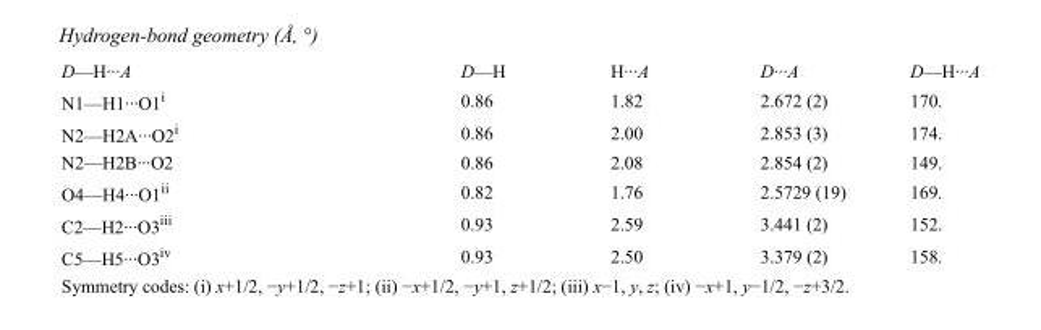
<table><tbody><tr><td>D—H···A</td><td>D—H</td><td>H···A</td><td>D···A</td><td>D—H···A</td></tr><tr><td>N1—H1···O1<sup>i</sup></td><td>0.86</td><td>1.82</td><td>2.672 (2)</td><td>170.</td></tr><tr><td>N2—H2A···O2<sup>i</sup></td><td>0.86</td><td>2.00</td><td>2.853 (3)</td><td>174.</td></tr><tr><td>N2—H2B···O2</td><td>0.86</td><td>2.08</td><td>2.854 (2)</td><td>149.</td></tr><tr><td>O4—H4···O1<sup>ii</sup></td><td>0.82</td><td>1.76</td><td>2.5729 (19)</td><td>169.</td></tr><tr><td>C2—H2···O3<sup>iii</sup></td><td>0.93</td><td>2.59</td><td>3.441 (2)</td><td>152.</td></tr><tr><td>C5—H5···O3<sup>iv</sup></td><td>0.93</td><td>2.50</td><td>3.379 (2)</td><td>158.</td></tr></tbody></table>